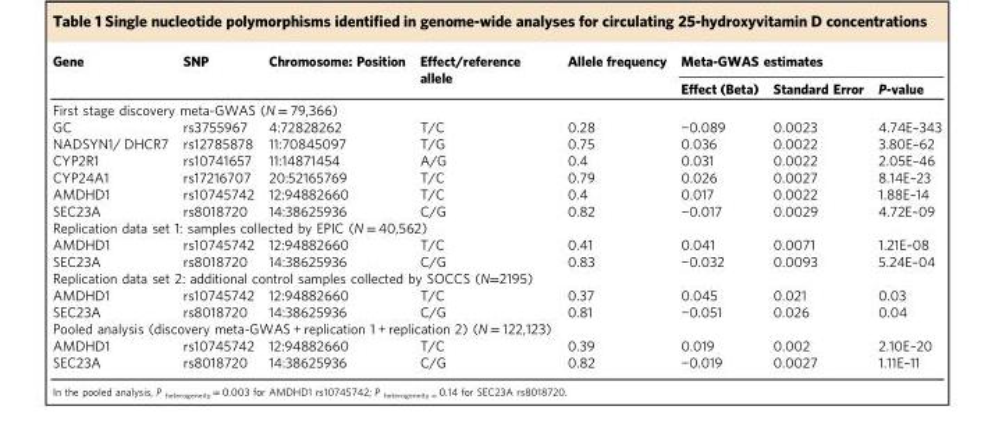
<table><thead><tr><td rowspan="2">Gene</td><td rowspan="2">SNP</td><td rowspan="2">Chromosome: Position</td><td rowspan="2">Effect/reference allele</td><td rowspan="2">Allele frequency</td><td colspan="3">Meta-GWAS estimates</td></tr><tr><td>Effect (Beta)</td><td>Standard Error</td><td>P-value</td></tr></thead><tbody><tr><td colspan="8">First stage discovery meta-GWAS (N = 79,366)</td></tr><tr><td>GC</td><td>rs3755967</td><td>4:72828262</td><td>T/C</td><td>0.28</td><td>−0.089</td><td>0.0023</td><td>4.74E–343</td></tr><tr><td>NADSYN1/ DHCR7</td><td>rs12785878</td><td>11:70845097</td><td>T/G</td><td>0.75</td><td>0.036</td><td>0.0022</td><td>3.80E–62</td></tr><tr><td>CYP2R1</td><td>rs10741657</td><td>11:14871454</td><td>A/G</td><td>0.4</td><td>0.031</td><td>0.0022</td><td>2.05E–46</td></tr><tr><td>CYP24A1</td><td>rs17216707</td><td>20:52165769</td><td>T/C</td><td>0.79</td><td>0.026</td><td>0.0027</td><td>8.14E–23</td></tr><tr><td>AMDHD1</td><td>rs10745742</td><td>12:94882660</td><td>T/C</td><td>0.4</td><td>0.017</td><td>0.0022</td><td>1.88E–14</td></tr><tr><td>SEC23A</td><td>rs8018720</td><td>14:38625936</td><td>C/G</td><td>0.82</td><td>−0.017</td><td>0.0029</td><td>4.72E–09</td></tr><tr><td colspan="8">Replication data set 1: samples collected by EPIC (N = 40,562)</td></tr><tr><td>AMDHD1</td><td>rs10745742</td><td>12:94882660</td><td>T/C</td><td>0.41</td><td>0.041</td><td>0.0071</td><td>1.21E–08</td></tr><tr><td>SEC23A</td><td>rs8018720</td><td>14:38625936</td><td>C/G</td><td>0.83</td><td>−0.032</td><td>0.0093</td><td>5.24E–04</td></tr><tr><td colspan="8">Replication data set 2: additional control samples collected by SOCCS (N=2195)</td></tr><tr><td>AMDHD1</td><td>rs10745742</td><td>12:94882660</td><td>T/C</td><td>0.37</td><td>0.045</td><td>0.021</td><td>0.03</td></tr><tr><td>SEC23A</td><td>rs8018720</td><td>14:38625936</td><td>C/G</td><td>0.81</td><td>−0.051</td><td>0.026</td><td>0.04</td></tr><tr><td colspan="8">Pooled analysis (discovery meta-GWAS + replication 1 + replication 2) (N = 122,123)</td></tr><tr><td>AMDHD1</td><td>rs10745742</td><td>12:94882660</td><td>T/C</td><td>0.39</td><td>0.019</td><td>0.002</td><td>2.10E–20</td></tr><tr><td>SEC23A</td><td>rs8018720</td><td>14:38625936</td><td>C/G</td><td>0.82</td><td>−0.019</td><td>0.0027</td><td>1.11E–11</td></tr></tbody></table>